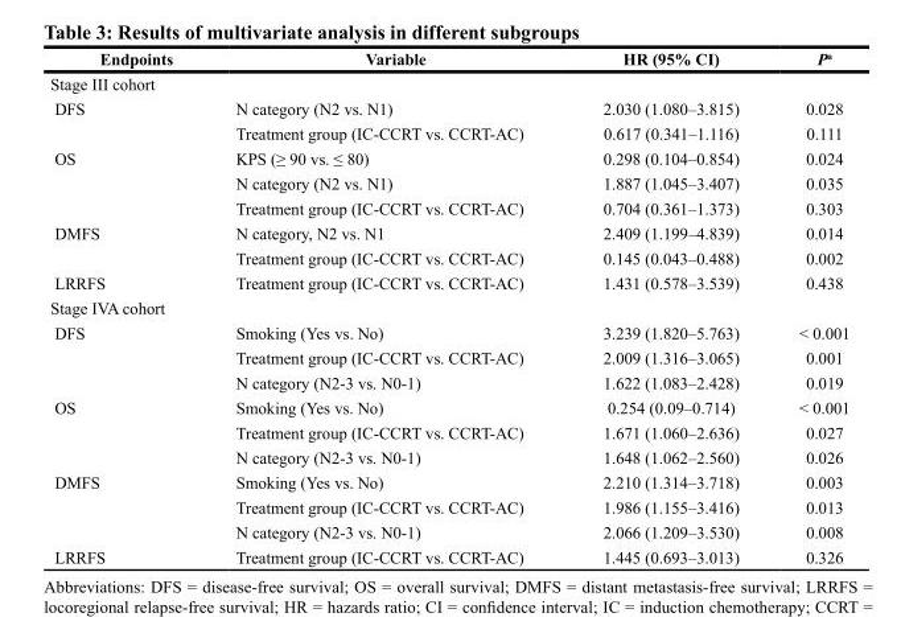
<table><thead><tr><td>Endpoints</td><td>Variable</td><td>HR (95% CI)</td><td>P<sup>a</sup></td></tr></thead><tbody><tr><td colspan="4">Stage III cohort</td></tr><tr><td rowspan="2">DFS</td><td>N category (N2 vs. N1)</td><td>2.030 (1.080–3.815)</td><td>0.028</td></tr><tr><td>Treatment group (IC-CCRT vs. CCRT-AC)</td><td>0.617 (0.341–1.116)</td><td>0.111</td></tr><tr><td rowspan="3">OS</td><td>KPS (≥ 90 vs. ≤ 80)</td><td>0.298 (0.104–0.854)</td><td>0.024</td></tr><tr><td>N category (N2 vs. N1)</td><td>1.887 (1.045–3.407)</td><td>0.035</td></tr><tr><td>Treatment group (IC-CCRT vs. CCRT-AC)</td><td>0.704 (0.361–1.373)</td><td>0.303</td></tr><tr><td rowspan="2">DMFS</td><td>N category, N2 vs. N1</td><td>2.409 (1.199–4.839)</td><td>0.014</td></tr><tr><td>Treatment group (IC-CCRT vs. CCRT-AC)</td><td>0.145 (0.043–0.488)</td><td>0.002</td></tr><tr><td>LRRFS</td><td>Treatment group (IC-CCRT vs. CCRT-AC)</td><td>1.431 (0.578–3.539)</td><td>0.438</td></tr><tr><td colspan="4">Stage IVA cohort</td></tr><tr><td rowspan="3">DFS</td><td>Smoking (Yes vs. No)</td><td>3.239 (1.820–5.763)</td><td>&lt; 0.001</td></tr><tr><td>Treatment group (IC-CCRT vs. CCRT-AC)</td><td>2.009 (1.316–3.065)</td><td>0.001</td></tr><tr><td>N category (N2-3 vs. N0-1)</td><td>1.622 (1.083–2.428)</td><td>0.019</td></tr><tr><td rowspan="3">OS</td><td>Smoking (Yes vs. No)</td><td>0.254 (0.09–0.714)</td><td>&lt; 0.001</td></tr><tr><td>Treatment group (IC-CCRT vs. CCRT-AC)</td><td>1.671 (1.060–2.636)</td><td>0.027</td></tr><tr><td>N category (N2-3 vs. N0-1)</td><td>1.648 (1.062–2.560)</td><td>0.026</td></tr><tr><td rowspan="3">DMFS</td><td>Smoking (Yes vs. No)</td><td>2.210 (1.314–3.718)</td><td>0.003</td></tr><tr><td>Treatment group (IC-CCRT vs. CCRT-AC)</td><td>1.986 (1.155–3.416)</td><td>0.013</td></tr><tr><td>N category (N2-3 vs. N0-1)</td><td>2.066 (1.209–3.530)</td><td>0.008</td></tr><tr><td>LRRFS</td><td>Treatment group (IC-CCRT vs. CCRT-AC)</td><td>1.445 (0.693–3.013)</td><td>0.326</td></tr></tbody></table>